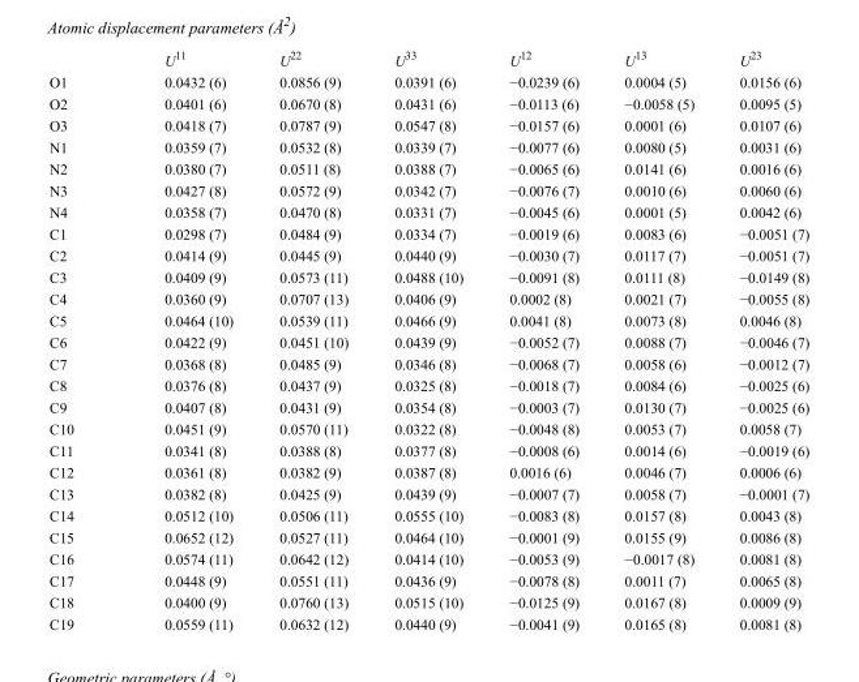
<table><thead><tr><td></td><td>U<sup>11</sup></td><td>U<sup>22</sup></td><td>U<sup>33</sup></td><td>U<sup>12</sup></td><td>U<sup>13</sup></td><td>U<sup>23</sup></td></tr></thead><tbody><tr><td>O1</td><td>0.0432 (6)</td><td>0.0856 (9)</td><td>0.0391 (6)</td><td>−0.0239 (6)</td><td>0.0004 (5)</td><td>0.0156 (6)</td></tr><tr><td>O2</td><td>0.0401 (6)</td><td>0.0670 (8)</td><td>0.0431 (6)</td><td>−0.0113 (6)</td><td>−0.0058 (5)</td><td>0.0095 (5)</td></tr><tr><td>O3</td><td>0.0418 (7)</td><td>0.0787 (9)</td><td>0.0547 (8)</td><td>−0.0157 (6)</td><td>0.0001 (6)</td><td>0.0107 (6)</td></tr><tr><td>N1</td><td>0.0359 (7)</td><td>0.0532 (8)</td><td>0.0339 (7)</td><td>−0.0077 (6)</td><td>0.0080 (5)</td><td>0.0031 (6)</td></tr><tr><td>N2</td><td>0.0380 (7)</td><td>0.0511 (8)</td><td>0.0388 (7)</td><td>−0.0065 (6)</td><td>0.0141 (6)</td><td>0.0016 (6)</td></tr><tr><td>N3</td><td>0.0427 (8)</td><td>0.0572 (9)</td><td>0.0342 (7)</td><td>−0.0076 (7)</td><td>0.0010 (6)</td><td>0.0060 (6)</td></tr><tr><td>N4</td><td>0.0358 (7)</td><td>0.0470 (8)</td><td>0.0331 (7)</td><td>−0.0045 (6)</td><td>0.0001 (5)</td><td>0.0042 (6)</td></tr><tr><td>C1</td><td>0.0298 (7)</td><td>0.0484 (9)</td><td>0.0334 (7)</td><td>−0.0019 (6)</td><td>0.0083 (6)</td><td>−0.0051 (7)</td></tr><tr><td>C2</td><td>0.0414 (9)</td><td>0.0445 (9)</td><td>0.0440 (9)</td><td>−0.0030 (7)</td><td>0.0117 (7)</td><td>−0.0051 (7)</td></tr><tr><td>C3</td><td>0.0409 (9)</td><td>0.0573 (11)</td><td>0.0488 (10)</td><td>−0.0091 (8)</td><td>0.0111 (8)</td><td>−0.0149 (8)</td></tr><tr><td>C4</td><td>0.0360 (9)</td><td>0.0707 (13)</td><td>0.0406 (9)</td><td>0.0002 (8)</td><td>0.0021 (7)</td><td>−0.0055 (8)</td></tr><tr><td>C5</td><td>0.0464 (10)</td><td>0.0539 (11)</td><td>0.0466 (9)</td><td>0.0041 (8)</td><td>0.0073 (8)</td><td>0.0046 (8)</td></tr><tr><td>C6</td><td>0.0422 (9)</td><td>0.0451 (10)</td><td>0.0439 (9)</td><td>−0.0052 (7)</td><td>0.0088 (7)</td><td>−0.0046 (7)</td></tr><tr><td>C7</td><td>0.0368 (8)</td><td>0.0485 (9)</td><td>0.0346 (8)</td><td>−0.0068 (7)</td><td>0.0058 (6)</td><td>−0.0012 (7)</td></tr><tr><td>C8</td><td>0.0376 (8)</td><td>0.0437 (9)</td><td>0.0325 (8)</td><td>−0.0018 (7)</td><td>0.0084 (6)</td><td>−0.0025 (6)</td></tr><tr><td>C9</td><td>0.0407 (8)</td><td>0.0431 (9)</td><td>0.0354 (8)</td><td>−0.0003 (7)</td><td>0.0130 (7)</td><td>−0.0025 (6)</td></tr><tr><td>C10</td><td>0.0451 (9)</td><td>0.0570 (11)</td><td>0.0322 (8)</td><td>−0.0048 (8)</td><td>0.0053 (7)</td><td>0.0058 (7)</td></tr><tr><td>C11</td><td>0.0341 (8)</td><td>0.0388 (8)</td><td>0.0377 (8)</td><td>−0.0008 (6)</td><td>0.0014 (6)</td><td>−0.0019 (6)</td></tr><tr><td>C12</td><td>0.0361 (8)</td><td>0.0382 (9)</td><td>0.0387 (8)</td><td>0.0016 (6)</td><td>0.0046 (7)</td><td>0.0006 (6)</td></tr><tr><td>C13</td><td>0.0382 (8)</td><td>0.0425 (9)</td><td>0.0439 (9)</td><td>−0.0007 (7)</td><td>0.0058 (7)</td><td>−0.0001 (7)</td></tr><tr><td>C14</td><td>0.0512 (10)</td><td>0.0506 (11)</td><td>0.0555 (10)</td><td>−0.0083 (8)</td><td>0.0157 (8)</td><td>0.0043 (8)</td></tr><tr><td>C15</td><td>0.0652 (12)</td><td>0.0527 (11)</td><td>0.0464 (10)</td><td>−0.0001 (9)</td><td>0.0155 (9)</td><td>0.0086 (8)</td></tr><tr><td>C16</td><td>0.0574 (11)</td><td>0.0642 (12)</td><td>0.0414 (10)</td><td>−0.0053 (9)</td><td>−0.0017 (8)</td><td>0.0081 (8)</td></tr><tr><td>C17</td><td>0.0448 (9)</td><td>0.0551 (11)</td><td>0.0436 (9)</td><td>−0.0078 (8)</td><td>0.0011 (7)</td><td>0.0065 (8)</td></tr><tr><td>C18</td><td>0.0400 (9)</td><td>0.0760 (13)</td><td>0.0515 (10)</td><td>−0.0125 (9)</td><td>0.0167 (8)</td><td>0.0009 (9)</td></tr><tr><td>C19</td><td>0.0559 (11)</td><td>0.0632 (12)</td><td>0.0440 (9)</td><td>−0.0041 (9)</td><td>0.0165 (8)</td><td>0.0081 (8)</td></tr></tbody></table>